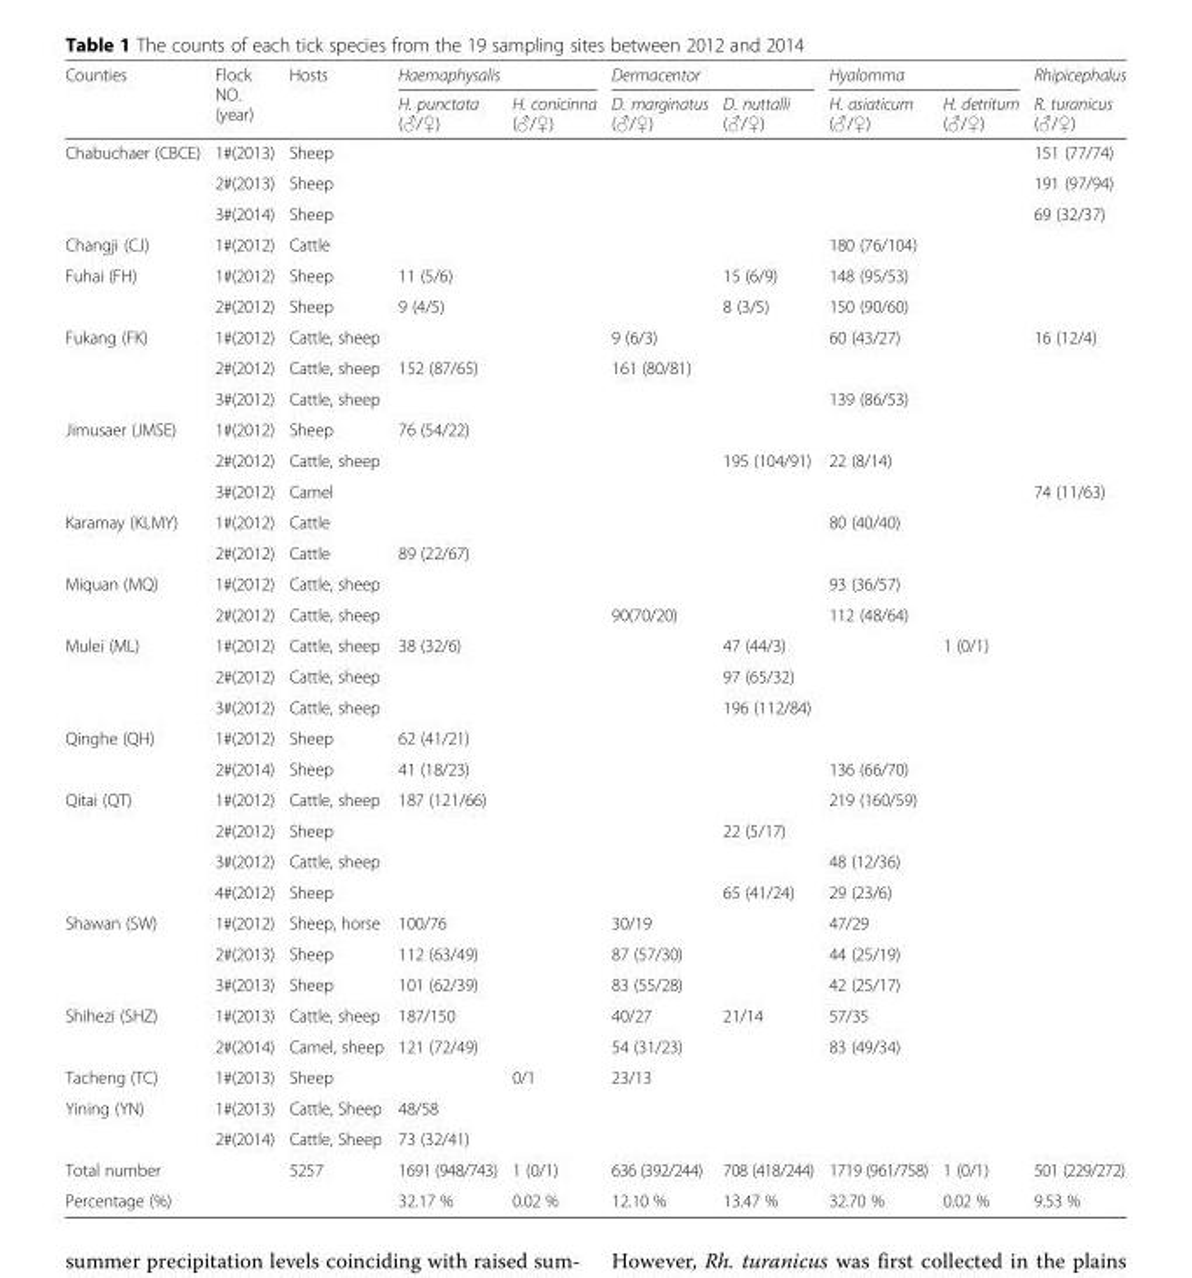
<table><thead><tr><td rowspan="2">Counties</td><td rowspan="2">Flock NO. (year)</td><td rowspan="2">Hosts</td><td colspan="2">Haemaphysalis</td><td colspan="2">Dermacentor</td><td colspan="2">Hyalomma</td><td rowspan="2">Rhipicephalus R. turanicus (♂/♀)</td></tr><tr><td>H. punctata (♂/♀)</td><td>H. conicinna (♂/♀)</td><td>D. marginatus (♂/♀)</td><td>D. nuttalli (♂/♀)</td><td>H. asiaticum (♂/♀)</td><td>H. detritum (♂/♀)</td></tr></thead><tbody><tr><td rowspan="3">Chabuchaer (CBCE)</td><td>1#(2013)</td><td>Sheep</td><td></td><td></td><td></td><td></td><td></td><td></td><td>151 (77/74)</td></tr><tr><td>2#(2013)</td><td>Sheep</td><td></td><td></td><td></td><td></td><td></td><td></td><td>191 (97/94)</td></tr><tr><td>3#(2014)</td><td>Sheep</td><td></td><td></td><td></td><td></td><td></td><td></td><td>69 (32/37)</td></tr><tr><td>Changji (CJ)</td><td>1#(2012)</td><td>Cattle</td><td></td><td></td><td></td><td></td><td>180 (76/104)</td><td></td><td></td></tr><tr><td rowspan="2">Fuhai (FH)</td><td>1#(2012)</td><td>Sheep</td><td>11 (5/6)</td><td></td><td></td><td>15 (6/9)</td><td>148 (95/53)</td><td></td><td></td></tr><tr><td>2#(2012)</td><td>Sheep</td><td>9 (4/5)</td><td></td><td></td><td>8 (3/5)</td><td>150 (90/60)</td><td></td><td></td></tr><tr><td rowspan="3">Fukang (FK)</td><td>1#(2012)</td><td>Cattle, sheep</td><td></td><td></td><td>9 (6/3)</td><td></td><td>60 (43/27)</td><td></td><td>16 (12/4)</td></tr><tr><td>2#(2012)</td><td>Cattle, sheep</td><td>152 (87/65)</td><td></td><td>161 (80/81)</td><td></td><td></td><td></td><td></td></tr><tr><td>3#(2012)</td><td>Cattle, sheep</td><td></td><td></td><td></td><td></td><td>139 (86/53)</td><td></td><td></td></tr><tr><td rowspan="3">Jimusaer (JMSE)</td><td>1#(2012)</td><td>Sheep</td><td>76 (54/22)</td><td></td><td></td><td></td><td></td><td></td><td></td></tr><tr><td>2#(2012)</td><td>Cattle, sheep</td><td></td><td></td><td></td><td>195 (104/91)</td><td>22 (8/14)</td><td></td><td></td></tr><tr><td>3#(2012)</td><td>Camel</td><td></td><td></td><td></td><td></td><td></td><td></td><td>74 (11/63)</td></tr><tr><td rowspan="2">Karamay (KLMY)</td><td>1#(2012)</td><td>Cattle</td><td></td><td></td><td></td><td></td><td>80 (40/40)</td><td></td><td></td></tr><tr><td>2#(2012)</td><td>Cattle</td><td>89 (22/67)</td><td></td><td></td><td></td><td></td><td></td><td></td></tr><tr><td rowspan="2">Miquan (MQ)</td><td>1#(2012)</td><td>Cattle, sheep</td><td></td><td></td><td></td><td></td><td>93 (36/57)</td><td></td><td></td></tr><tr><td>2#(2012)</td><td>Cattle, sheep</td><td></td><td></td><td>90(70/20)</td><td></td><td>112 (48/64)</td><td></td><td></td></tr><tr><td rowspan="3">Mulei (ML)</td><td>1#(2012)</td><td>Cattle, sheep</td><td>38 (32/6)</td><td></td><td></td><td>47 (44/3)</td><td></td><td>1 (0/1)</td><td></td></tr><tr><td>2#(2012)</td><td>Cattle, sheep</td><td></td><td></td><td></td><td>97 (65/32)</td><td></td><td></td><td></td></tr><tr><td>3#(2012)</td><td>Cattle, sheep</td><td></td><td></td><td></td><td>196 (112/84)</td><td></td><td></td><td></td></tr><tr><td rowspan="2">Qinghe (QH)</td><td>1#(2012)</td><td>Sheep</td><td>62 (41/21)</td><td></td><td></td><td></td><td></td><td></td><td></td></tr><tr><td>2#(2014)</td><td>Sheep</td><td>41 (18/23)</td><td></td><td></td><td></td><td>136 (66/70)</td><td></td><td></td></tr><tr><td rowspan="4">Qitai (QT)</td><td>1#(2012)</td><td>Cattle, sheep</td><td>187 (121/66)</td><td></td><td></td><td></td><td>219 (160/59)</td><td></td><td></td></tr><tr><td>2#(2012)</td><td>Sheep</td><td></td><td></td><td></td><td>22 (5/17)</td><td></td><td></td><td></td></tr><tr><td>3#(2012)</td><td>Cattle, sheep</td><td></td><td></td><td></td><td></td><td>48 (12/36)</td><td></td><td></td></tr><tr><td>4#(2012)</td><td>Sheep</td><td></td><td></td><td></td><td>65 (41/24)</td><td>29 (23/6)</td><td></td><td></td></tr><tr><td rowspan="3">Shawan (SW)</td><td>1#(2012)</td><td>Sheep, horse</td><td>100/76</td><td></td><td>30/19</td><td></td><td>47/29</td><td></td><td></td></tr><tr><td>2#(2013)</td><td>Sheep</td><td>112 (63/49)</td><td></td><td>87 (57/30)</td><td></td><td>44 (25/19)</td><td></td><td></td></tr><tr><td>3#(2013)</td><td>Sheep</td><td>101 (62/39)</td><td></td><td>83 (55/28)</td><td></td><td>42 (25/17)</td><td></td><td></td></tr><tr><td rowspan="2">Shihezi (SHZ)</td><td>1#(2013)</td><td>Cattle, sheep</td><td>187/150</td><td></td><td>40/27</td><td>21/14</td><td>57/35</td><td></td><td></td></tr><tr><td>2#(2014)</td><td>Camel, sheep</td><td>121 (72/49)</td><td></td><td>54 (31/23)</td><td></td><td>83 (49/34)</td><td></td><td></td></tr><tr><td>Tacheng (TC)</td><td>1#(2013)</td><td>Sheep</td><td></td><td>0/1</td><td>23/13</td><td></td><td></td><td></td><td></td></tr><tr><td rowspan="2">Yining (YN)</td><td>1#(2013)</td><td>Cattle, Sheep</td><td>48/58</td><td></td><td></td><td></td><td></td><td></td><td></td></tr><tr><td>2#(2014)</td><td>Cattle, Sheep</td><td>73 (32/41)</td><td></td><td></td><td></td><td></td><td></td><td></td></tr><tr><td colspan="2">Total number</td><td>5257</td><td>1691 (948/743)</td><td>1 (0/1)</td><td>636 (392/244)</td><td>708 (418/244)</td><td>1719 (961/758)</td><td>1 (0/1)</td><td>501 (229/272)</td></tr><tr><td colspan="3">Percentage (%)</td><td>32.17 %</td><td>0.02 %</td><td>12.10 %</td><td>13.47 %</td><td>32.70 %</td><td>0.02 %</td><td>9.53 %</td></tr></tbody></table>